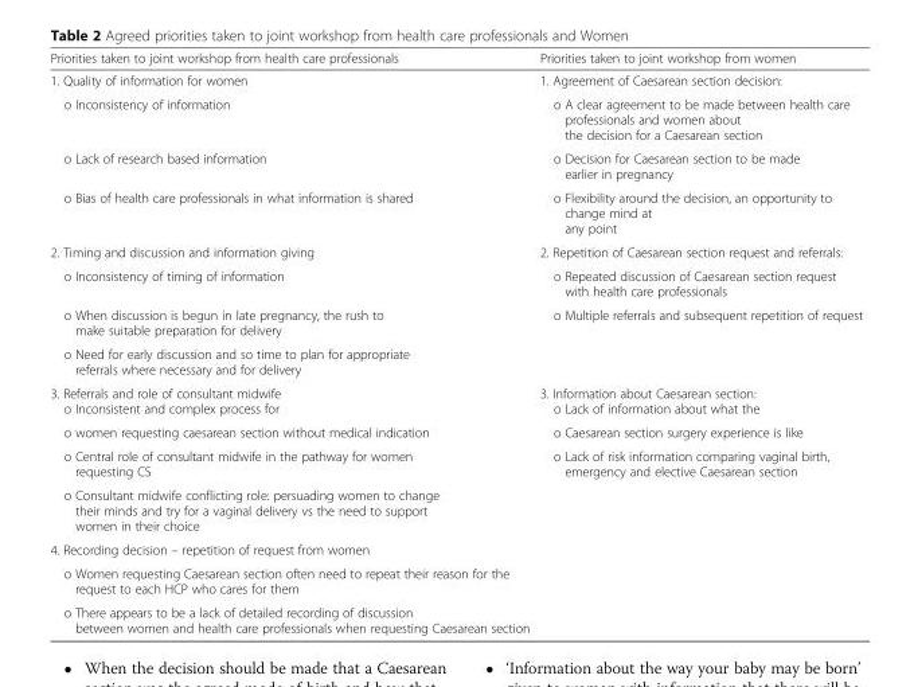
<table><thead><tr><td>Priorities taken to joint workshop from health care professionals</td><td>Priorities taken to joint workshop from women</td></tr></thead><tbody><tr><td>1. Quality of information for women</td><td>1. Agreement of Caesarean section decision:</td></tr><tr><td>o Inconsistency of information</td><td>o A clear agreement to be made between health care professionals and women about the decision for a Caesarean section</td></tr><tr><td>o Lack of research based information</td><td>o Decision for Caesarean section to be made earlier in pregnancy</td></tr><tr><td>o Bias of health care professionals in what information is shared</td><td>o Flexibility around the decision, an opportunity to change mind at any point</td></tr><tr><td>2. Timing and discussion and information giving</td><td>2. Repetition of Caesarean section request and referrals:</td></tr><tr><td>o Inconsistency of timing of information</td><td>o Repeated discussion of Caesarean section request with health care professionals</td></tr><tr><td>o When discussion is begun in late pregnancy, the rush to make suitable preparation for delivery</td><td>o Multiple referrals and subsequent repetition of request</td></tr><tr><td colspan="2">o Need for early discussion and so time to plan for appropriate referrals where necessary and for delivery</td></tr><tr><td>3. Referrals and role of consultant midwife o Inconsistent and complex process for</td><td>3. Information about Caesarean section: o Lack of information about what the</td></tr><tr><td>o women requesting caesarean section without medical indication</td><td>o Caesarean section surgery experience is like</td></tr><tr><td>o Central role of consultant midwife in the pathway for women requesting CS</td><td>o Lack of risk information comparing vaginal birth, emergency and elective Caesarean section</td></tr><tr><td colspan="2">o Consultant midwife conflicting role: persuading women to change their minds and try for a vaginal delivery vs the need to support women in their choice</td></tr><tr><td colspan="2">4. Recording decision – repetition of request from women</td></tr><tr><td colspan="2">o Women requesting Caesarean section often need to repeat their reason for the request to each HCP who cares for them</td></tr><tr><td>o There appears to be a lack of detailed recording of discussion between women and health care professionals when requesting Caesarean section</td><td></td></tr></tbody></table>